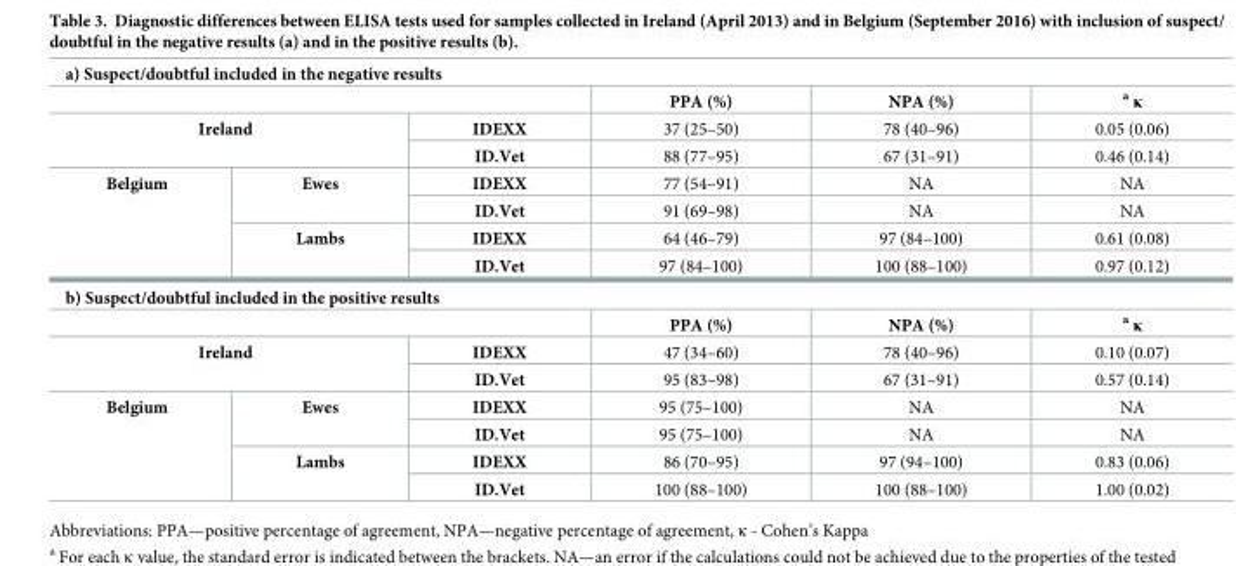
<table><tbody><tr><td colspan="6">a) Suspect/doubtful included in the negative results</td></tr><tr><td colspan="3"></td><td>PPA (%)</td><td>NPA (%)</td><td><sup>a</sup> κ</td></tr><tr><td rowspan="2" colspan="2">Ireland</td><td>IDEXX</td><td>37 (25–50)</td><td>78 (40–96)</td><td>0.05 (0.06)</td></tr><tr><td>ID.Vet</td><td>88 (77–95)</td><td>67 (31–91)</td><td>0.46 (0.14)</td></tr><tr><td rowspan="4">Belgium</td><td rowspan="2">Ewes</td><td>IDEXX</td><td>77 (54–91)</td><td>NA</td><td>NA</td></tr><tr><td>ID.Vet</td><td>91 (69–98)</td><td>NA</td><td>NA</td></tr><tr><td rowspan="2">Lambs</td><td>IDEXX</td><td>64 (46–79)</td><td>97 (84–100)</td><td>0.61 (0.08)</td></tr><tr><td>ID.Vet</td><td>97 (84–100)</td><td>100 (88–100)</td><td>0.97 (0.12)</td></tr><tr><td colspan="6">b) Suspect/doubtful included in the positive results</td></tr><tr><td colspan="3"></td><td>PPA (%)</td><td>NPA (%)</td><td><sup>a</sup> κ</td></tr><tr><td rowspan="2" colspan="2">Ireland</td><td>IDEXX</td><td>47 (34–60)</td><td>78 (40–96)</td><td>0.10 (0.07)</td></tr><tr><td>ID.Vet</td><td>95 (83–98)</td><td>67 (31–91)</td><td>0.57 (0.14)</td></tr><tr><td rowspan="4">Belgium</td><td rowspan="2">Ewes</td><td>IDEXX</td><td>95 (75–100)</td><td>NA</td><td>NA</td></tr><tr><td>ID.Vet</td><td>95 (75–100)</td><td>NA</td><td>NA</td></tr><tr><td rowspan="2">Lambs</td><td>IDEXX</td><td>86 (70–95)</td><td>97 (94–100)</td><td>0.83 (0.06)</td></tr><tr><td>ID.Vet</td><td>100 (88–100)</td><td>100 (88–100)</td><td>1.00 (0.02)</td></tr></tbody></table>